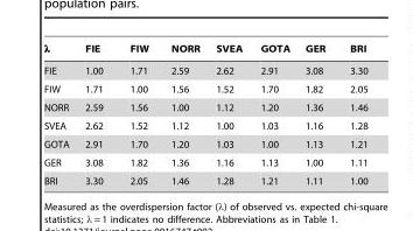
<table><thead><tr><td>λ</td><td>FIE</td><td>FIW</td><td>NORR</td><td>SVEA</td><td>GOTA</td><td>GER</td><td>BRI</td></tr></thead><tbody><tr><td>FIE</td><td>1.00</td><td>1.71</td><td>2.59</td><td>2.62</td><td>2.91</td><td>3.08</td><td>3.30</td></tr><tr><td>FIW</td><td>1.71</td><td>1.00</td><td>1.56</td><td>1.52</td><td>1.70</td><td>1.82</td><td>2.05</td></tr><tr><td>NORR</td><td>2.59</td><td>1.56</td><td>1.00</td><td>1.12</td><td>1.20</td><td>1.36</td><td>1.46</td></tr><tr><td>SVEA</td><td>2.62</td><td>1.52</td><td>1.12</td><td>1.00</td><td>1.03</td><td>1.16</td><td>1.28</td></tr><tr><td>GOTA</td><td>2.91</td><td>1.70</td><td>1.20</td><td>1.03</td><td>1.00</td><td>1.13</td><td>1.21</td></tr><tr><td>GER</td><td>3.08</td><td>1.82</td><td>1.36</td><td>1.16</td><td>1.13</td><td>1.00</td><td>1.11</td></tr><tr><td>BRI</td><td>3.30</td><td>2.05</td><td>1.46</td><td>1.28</td><td>1.21</td><td>1.11</td><td>1.00</td></tr></tbody></table>